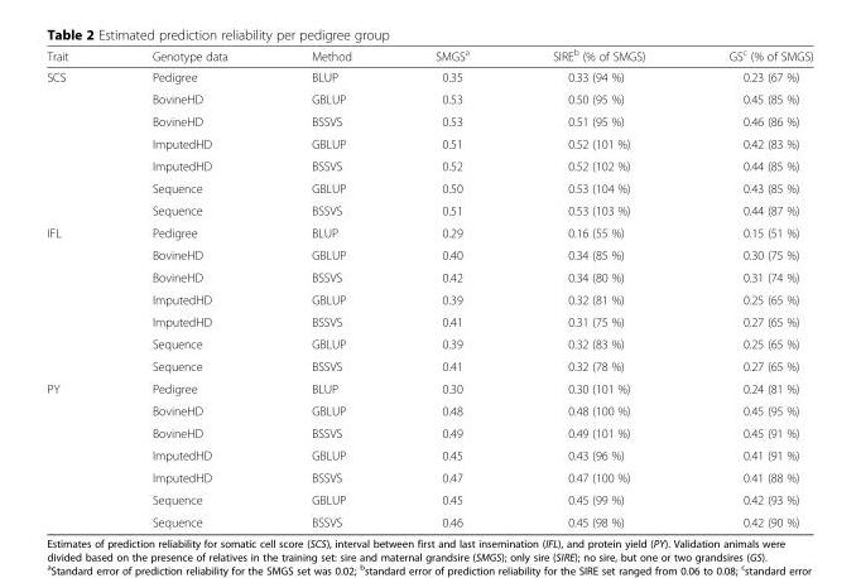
<table><thead><tr><td>Trait</td><td>Genotype data</td><td>Method</td><td>SMGS<sup>a</sup></td><td>SIRE<sup>b</sup> (% of SMGS)</td><td>GS<sup>c</sup> (% of SMGS)</td></tr></thead><tbody><tr><td rowspan="7">SCS</td><td>Pedigree</td><td>BLUP</td><td>0.35</td><td>0.33 (94 %)</td><td>0.23 (67 %)</td></tr><tr><td>BovineHD</td><td>GBLUP</td><td>0.53</td><td>0.50 (95 %)</td><td>0.45 (85 %)</td></tr><tr><td>BovineHD</td><td>BSSVS</td><td>0.53</td><td>0.51 (95 %)</td><td>0.46 (86 %)</td></tr><tr><td>ImputedHD</td><td>GBLUP</td><td>0.51</td><td>0.52 (101 %)</td><td>0.42 (83 %)</td></tr><tr><td>ImputedHD</td><td>BSSVS</td><td>0.52</td><td>0.52 (102 %)</td><td>0.44 (85 %)</td></tr><tr><td>Sequence</td><td>GBLUP</td><td>0.50</td><td>0.53 (104 %)</td><td>0.43 (85 %)</td></tr><tr><td>Sequence</td><td>BSSVS</td><td>0.51</td><td>0.53 (103 %)</td><td>0.44 (87 %)</td></tr><tr><td rowspan="7">IFL</td><td>Pedigree</td><td>BLUP</td><td>0.29</td><td>0.16 (55 %)</td><td>0.15 (51 %)</td></tr><tr><td>BovineHD</td><td>GBLUP</td><td>0.40</td><td>0.34 (85 %)</td><td>0.30 (75 %)</td></tr><tr><td>BovineHD</td><td>BSSVS</td><td>0.42</td><td>0.34 (80 %)</td><td>0.31 (74 %)</td></tr><tr><td>ImputedHD</td><td>GBLUP</td><td>0.39</td><td>0.32 (81 %)</td><td>0.25 (65 %)</td></tr><tr><td>ImputedHD</td><td>BSSVS</td><td>0.41</td><td>0.31 (75 %)</td><td>0.27 (65 %)</td></tr><tr><td>Sequence</td><td>GBLUP</td><td>0.39</td><td>0.32 (83 %)</td><td>0.25 (65 %)</td></tr><tr><td>Sequence</td><td>BSSVS</td><td>0.41</td><td>0.32 (78 %)</td><td>0.27 (65 %)</td></tr><tr><td rowspan="7">PY</td><td>Pedigree</td><td>BLUP</td><td>0.30</td><td>0.30 (101 %)</td><td>0.24 (81 %)</td></tr><tr><td>BovineHD</td><td>GBLUP</td><td>0.48</td><td>0.48 (100 %)</td><td>0.45 (95 %)</td></tr><tr><td>BovineHD</td><td>BSSVS</td><td>0.49</td><td>0.49 (101 %)</td><td>0.45 (91 %)</td></tr><tr><td>ImputedHD</td><td>GBLUP</td><td>0.45</td><td>0.43 (96 %)</td><td>0.41 (91 %)</td></tr><tr><td>ImputedHD</td><td>BSSVS</td><td>0.47</td><td>0.47 (100 %)</td><td>0.41 (88 %)</td></tr><tr><td>Sequence</td><td>GBLUP</td><td>0.45</td><td>0.45 (99 %)</td><td>0.42 (93 %)</td></tr><tr><td>Sequence</td><td>BSSVS</td><td>0.46</td><td>0.45 (98 %)</td><td>0.42 (90 %)</td></tr></tbody></table>